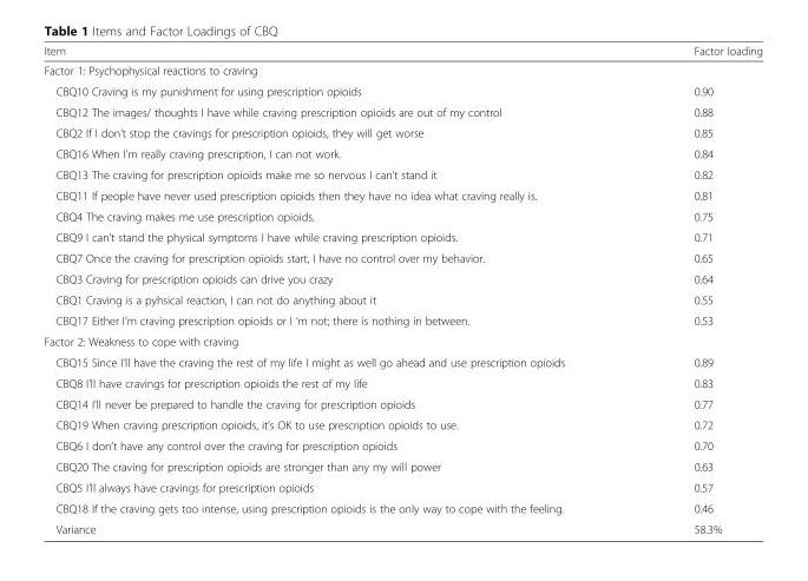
<table><thead><tr><td>Item</td><td>Factor loading</td></tr></thead><tbody><tr><td colspan="2">Factor 1: Psychophysical reactions to craving</td></tr><tr><td>CBQ10 Craving is my punishment for using prescription opioids</td><td>0.90</td></tr><tr><td>CBQ12 The images/ thoughts I have while craving prescription opioids are out of my control</td><td>0.88</td></tr><tr><td>CBQ2 If I don’t stop the cravings for prescription opioids, they will get worse</td><td>0.85</td></tr><tr><td>CBQ16 When I’m really craving prescription, I can not work.</td><td>0.84</td></tr><tr><td>CBQ13 The craving for prescription opioids make me so nervous I can’t stand it</td><td>0.82</td></tr><tr><td>CBQ11 If people have never used prescription opioids then they have no idea what craving really is.</td><td>0.81</td></tr><tr><td>CBQ4 The craving makes me use prescription opioids.</td><td>0.75</td></tr><tr><td>CBQ9 I can’t stand the physical symptoms I have while craving prescription opioids.</td><td>0.71</td></tr><tr><td>CBQ7 Once the craving for prescription opioids start, I have no control over my behavior.</td><td>0.65</td></tr><tr><td>CBQ3 Craving for prescription opioids can drive you crazy</td><td>0.64</td></tr><tr><td>CBQ1 Craving is a pyhsical reaction, I can not do anything about it</td><td>0.55</td></tr><tr><td>CBQ17 Either I’m craving prescription opioids or I ‘m not; there is nothing in between.</td><td>0.53</td></tr><tr><td colspan="2">Factor 2: Weakness to cope with craving</td></tr><tr><td>CBQ15 Since I’ll have the craving the rest of my life I might as well go ahead and use prescription opioids</td><td>0.89</td></tr><tr><td>CBQ8 I’ll have cravings for prescription opioids the rest of my life</td><td>0.83</td></tr><tr><td>CBQ14 I’ll never be prepared to handle the craving for prescription opioids</td><td>0.77</td></tr><tr><td>CBQ19 When craving prescription opioids, it’s OK to use prescription opioids to use.</td><td>0.72</td></tr><tr><td>CBQ6 I don’t have any control over the craving for prescription opioids</td><td>0.70</td></tr><tr><td>CBQ20 The craving for prescription opioids are stronger than any my will power</td><td>0.63</td></tr><tr><td>CBQ5 I’ll always have cravings for prescription opioids</td><td>0.57</td></tr><tr><td>CBQ18 If the craving gets too intense, using prescription opioids is the only way to cope with the feeling.</td><td>0.46</td></tr><tr><td>Variance</td><td>58.3%</td></tr></tbody></table>